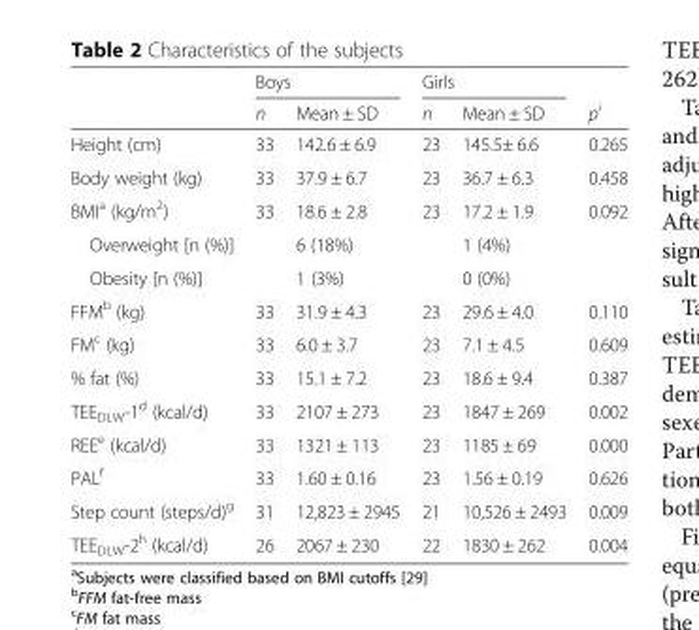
<table><thead><tr><td rowspan="2"></td><td colspan="2">Boys</td><td colspan="2">Girls</td><td rowspan="2">p<sup>i</sup></td></tr><tr><td>n</td><td>Mean ± SD</td><td>n</td><td>Mean ± SD</td></tr></thead><tbody><tr><td>Height (cm)</td><td>33</td><td>142.6 ± 6.9</td><td>23</td><td>145.5± 6.6</td><td>0.265</td></tr><tr><td>Body weight (kg)</td><td>33</td><td>37.9 ± 6.7</td><td>23</td><td>36.7 ± 6.3</td><td>0.458</td></tr><tr><td>BMI<sup>a</sup> (kg/m<sup>2</sup>)</td><td>33</td><td>18.6 ± 2.8</td><td>23</td><td>17.2 ± 1.9</td><td>0.092</td></tr><tr><td>Overweight [n (%)]</td><td></td><td>6 (18%)</td><td></td><td>1 (4%)</td><td></td></tr><tr><td>Obesity [n (%)]</td><td></td><td>1 (3%)</td><td></td><td>0 (0%)</td><td></td></tr><tr><td>FFM<sup>b</sup> (kg)</td><td>33</td><td>31.9 ± 4.3</td><td>23</td><td>29.6 ± 4.0</td><td>0.110</td></tr><tr><td>FM<sup>c</sup> (kg)</td><td>33</td><td>6.0 ± 3.7</td><td>23</td><td>7.1 ± 4.5</td><td>0.609</td></tr><tr><td>% fat (%)</td><td>33</td><td>15.1 ± 7.2</td><td>23</td><td>18.6 ± 9.4</td><td>0.387</td></tr><tr><td>TEE<sub>DLW</sub>-1<sup>d</sup> (kcal/d)</td><td>33</td><td>2107 ± 273</td><td>23</td><td>1847 ± 269</td><td>0.002</td></tr><tr><td>REE<sup>e</sup> (kcal/d)</td><td>33</td><td>1321 ± 113</td><td>23</td><td>1185 ± 69</td><td>0.000</td></tr><tr><td>PAL<sup>f</sup></td><td>33</td><td>1.60 ± 0.16</td><td>23</td><td>1.56 ± 0.19</td><td>0.626</td></tr><tr><td>Step count (steps/d)<sup>g</sup></td><td>31</td><td>12,823 ± 2945</td><td>21</td><td>10,526 ± 2493</td><td>0.009</td></tr><tr><td>TEE<sub>DLW</sub>-2<sup>h</sup> (kcal/d)</td><td>26</td><td>2067 ± 230</td><td>22</td><td>1830 ± 262</td><td>0.004</td></tr></tbody></table>